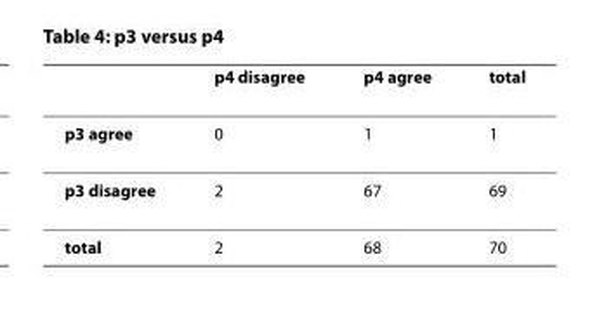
<table><thead><tr><td></td><td>p4 disagree</td><td>p4 agree</td><td>total</td></tr></thead><tbody><tr><td>p3 agree</td><td>0</td><td>1</td><td>1</td></tr><tr><td>p3 disagree</td><td>2</td><td>67</td><td>69</td></tr><tr><td>total</td><td>2</td><td>68</td><td>70</td></tr></tbody></table>